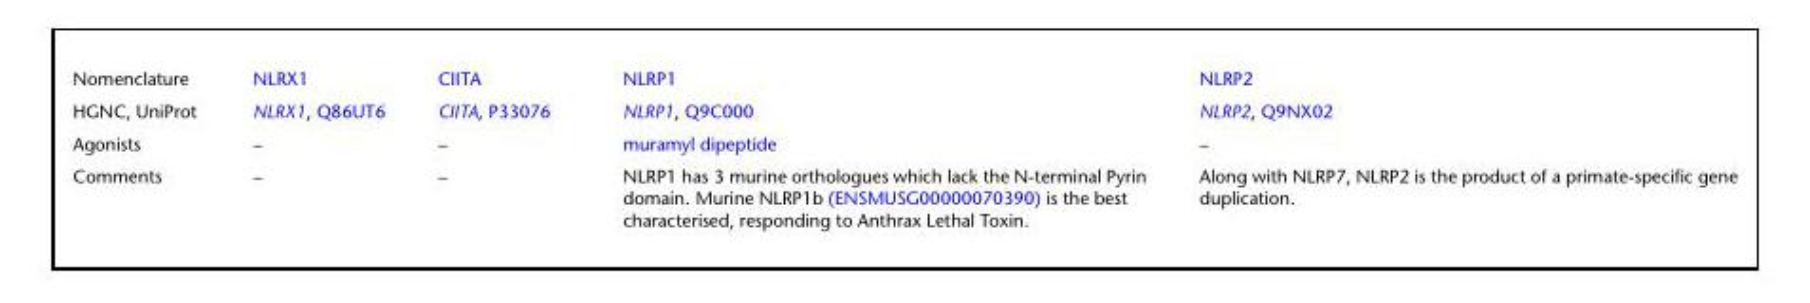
<table><tbody><tr><td>Nomenclature</td><td>NLRX1</td><td>CIITA</td><td>NLRP1</td><td>NLRP2</td></tr><tr><td>HGNC, UniProt</td><td>NLRX1, Q86UT6</td><td>CIITA, P33076</td><td>NLRP1, Q9C000</td><td>NLRP2, Q9NX02</td></tr><tr><td>Agonists</td><td>–</td><td>–</td><td>muramyl dipeptide</td><td>–</td></tr><tr><td>Comments</td><td>–</td><td>–</td><td>NLRP1 has 3 murine orthologues which lack the N-terminal Pyrin domain. Murine NLRP1b (ENSMUSG00000070390) is the best characterised, responding to Anthrax Lethal Toxin.</td><td>Along with NLRP7, NLRP2 is the product of a primate-specific gene duplication.</td></tr></tbody></table>